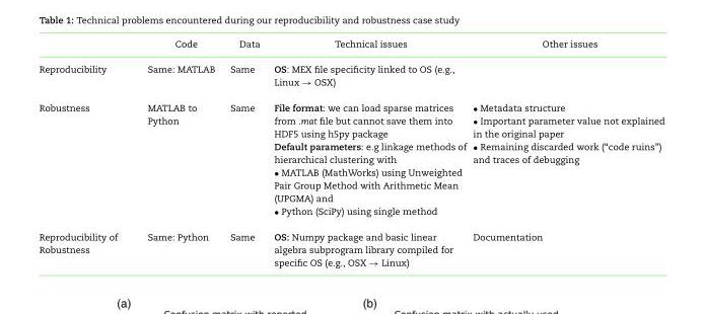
<table><thead><tr><td></td><td>Code</td><td>Data</td><td>Technical issues</td><td>Other issues</td></tr></thead><tbody><tr><td>Reproducibility</td><td>Same: MATLAB</td><td>Same</td><td>OS: MEX file specificity linked to OS (e.g., Linux → OSX)</td><td></td></tr><tr><td>Robustness</td><td>MATLAB to Python</td><td>Same</td><td>File format: we can load sparse matrices from .mat file but cannot save them into HDF5 using h5py package Default parameters: e.g linkage methods of hierarchical clustering with • MATLAB (MathWorks) using Unweighted Pair Group Method with Arithmetic Mean (UPGMA) and • Python (SciPy) using single method</td><td>• Metadata structure • Important parameter value not explained in the original paper • Remaining discarded work (“code ruins”) and traces of debugging</td></tr><tr><td>Reproducibility of Robustness</td><td>Same: Python</td><td>Same</td><td>OS: Numpy package and basic linear algebra subprogram library compiled for specific OS (e.g., OSX → Linux)</td><td>Documentation</td></tr></tbody></table>